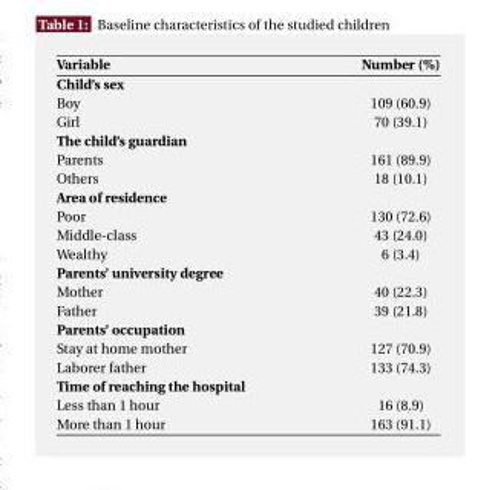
<table><thead><tr><td>Variable</td><td>Number (%)</td></tr></thead><tbody><tr><td colspan="2">Child’s sex</td></tr><tr><td>Boy</td><td>109 (60.9)</td></tr><tr><td>Girl</td><td>70 (39.1)</td></tr><tr><td colspan="2">The child’s guardian</td></tr><tr><td>Parents</td><td>161 (89.9)</td></tr><tr><td>Others</td><td>18 (10.1)</td></tr><tr><td colspan="2">Area of residence</td></tr><tr><td>Poor</td><td>130 (72.6)</td></tr><tr><td>Middle-class</td><td>43 (24.0)</td></tr><tr><td>Wealthy</td><td>6 (3.4)</td></tr><tr><td colspan="2">Parents’ university degree</td></tr><tr><td>Mother</td><td>40 (22.3)</td></tr><tr><td>Father</td><td>39 (21.8)</td></tr><tr><td colspan="2">Parents’ occupation</td></tr><tr><td>Stay at home mother</td><td>127 (70.9)</td></tr><tr><td>Laborer father</td><td>133 (74.3)</td></tr><tr><td colspan="2">Time of reaching the hospital</td></tr><tr><td>Less than 1 hour</td><td>16 (8.9)</td></tr><tr><td>More than 1 hour</td><td>163 (91.1)</td></tr></tbody></table>